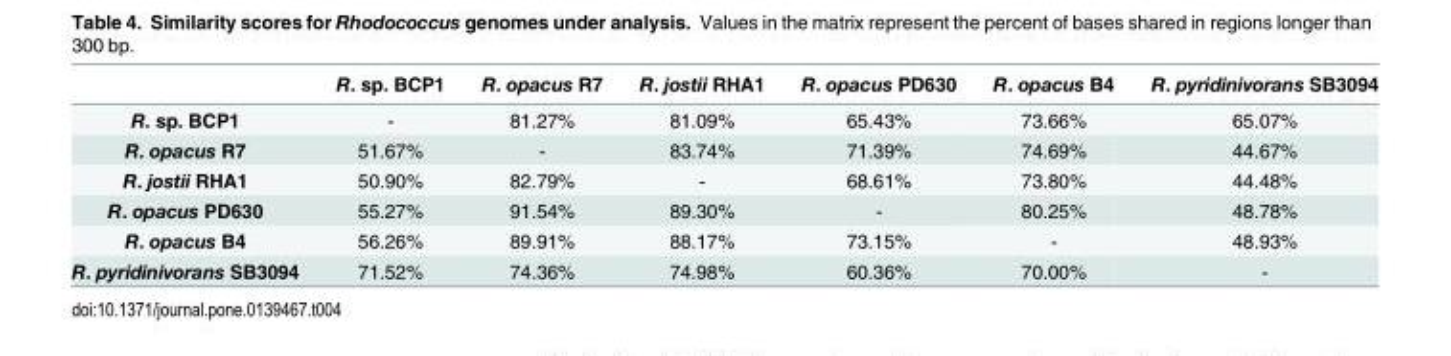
<table><thead><tr><td></td><td>R. sp. BCP1</td><td>R. opacus R7</td><td>R. jostii RHA1</td><td>R. opacus PD630</td><td>R. opacus B4</td><td>R. pyridinivorans SB3094</td></tr></thead><tbody><tr><td>R. sp. BCP1</td><td>-</td><td>81.27%</td><td>81.09%</td><td>65.43%</td><td>73.66%</td><td>65.07%</td></tr><tr><td>R. opacus R7</td><td>51.67%</td><td>-</td><td>83.74%</td><td>71.39%</td><td>74.69%</td><td>44.67%</td></tr><tr><td>R. jostii RHA1</td><td>50.90%</td><td>82.79%</td><td>-</td><td>68.61%</td><td>73.80%</td><td>44.48%</td></tr><tr><td>R. opacus PD630</td><td>55.27%</td><td>91.54%</td><td>89.30%</td><td>-</td><td>80.25%</td><td>48.78%</td></tr><tr><td>R. opacus B4</td><td>56.26%</td><td>89.91%</td><td>88.17%</td><td>73.15%</td><td>-</td><td>48.93%</td></tr><tr><td>R. pyridinivorans SB3094</td><td>71.52%</td><td>74.36%</td><td>74.98%</td><td>60.36%</td><td>70.00%</td><td>-</td></tr></tbody></table>